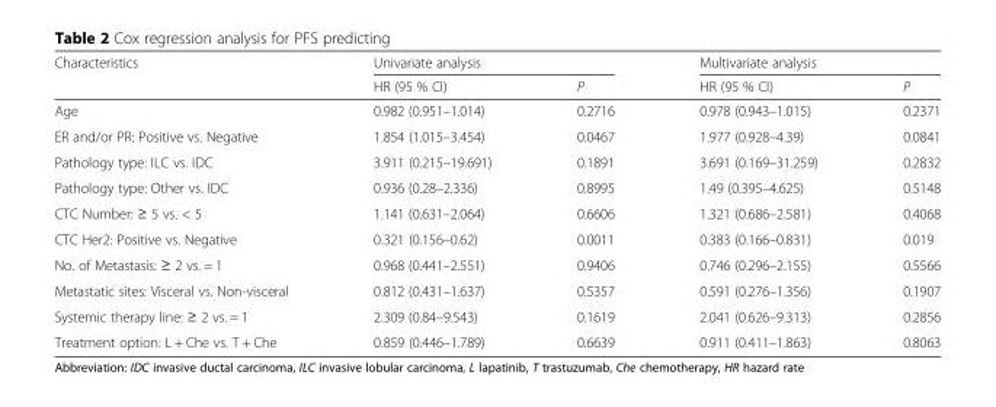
<table><thead><tr><td rowspan="2">Characteristics</td><td colspan="2">Univariate analysis</td><td colspan="2">Multivariate analysis</td></tr><tr><td>HR (95 % CI)</td><td>P</td><td>HR (95 % CI)</td><td>P</td></tr></thead><tbody><tr><td>Age</td><td>0.982 (0.951–1.014)</td><td>0.2716</td><td>0.978 (0.943–1.015)</td><td>0.2371</td></tr><tr><td>ER and/or PR: Positive vs. Negative</td><td>1.854 (1.015–3.454)</td><td>0.0467</td><td>1.977 (0.928–4.39)</td><td>0.0841</td></tr><tr><td>Pathology type: ILC vs. IDC</td><td>3.911 (0.215–19.691)</td><td>0.1891</td><td>3.691 (0.169–31.259)</td><td>0.2832</td></tr><tr><td>Pathology type: Other vs. IDC</td><td>0.936 (0.28–2.336)</td><td>0.8995</td><td>1.49 (0.395–4.625)</td><td>0.5148</td></tr><tr><td>CTC Number: ≥ 5 vs. &lt; 5</td><td>1.141 (0.631–2.064)</td><td>0.6606</td><td>1.321 (0.686–2.581)</td><td>0.4068</td></tr><tr><td>CTC Her2: Positive vs. Negative</td><td>0.321 (0.156–0.62)</td><td>0.0011</td><td>0.383 (0.166–0.831)</td><td>0.019</td></tr><tr><td>No. of Metastasis: ≥ 2 vs. = 1</td><td>0.968 (0.441–2.551)</td><td>0.9406</td><td>0.746 (0.296–2.155)</td><td>0.5566</td></tr><tr><td>Metastatic sites: Visceral vs. Non-visceral</td><td>0.812 (0.431–1.637)</td><td>0.5357</td><td>0.591 (0.276–1.356)</td><td>0.1907</td></tr><tr><td>Systemic therapy line: ≥ 2 vs. = 1</td><td>2.309 (0.84–9.543)</td><td>0.1619</td><td>2.041 (0.626–9.313)</td><td>0.2856</td></tr><tr><td>Treatment option: L + Che vs. T + Che</td><td>0.859 (0.446–1.789)</td><td>0.6639</td><td>0.911 (0.411–1.863)</td><td>0.8063</td></tr></tbody></table>